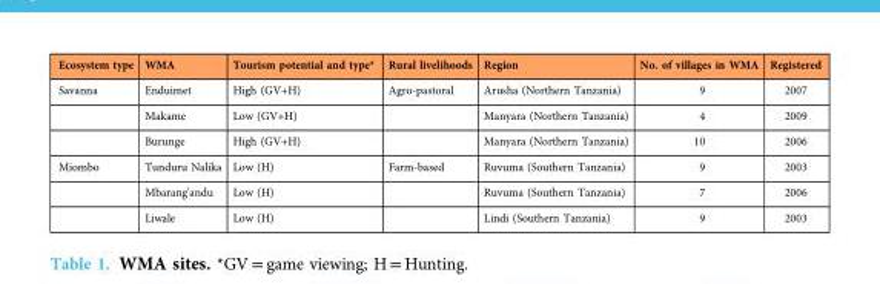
<table><thead><tr><td>Ecosystem type</td><td>WMA</td><td>Tourism potential and type*</td><td>Rural livelihoods</td><td>Region</td><td>No. of villages in WMA</td><td>Registered</td></tr></thead><tbody><tr><td rowspan="3">Savanna</td><td>Enduimet</td><td>High (GV+H)</td><td>Agro-pastoral</td><td>Arusha (Northern Tanzania)</td><td>9</td><td>2007</td></tr><tr><td>Makame</td><td>Low (GV+H)</td><td></td><td>Manyara (Northern Tanzania)</td><td>4</td><td>2009</td></tr><tr><td>Burunge</td><td>High (GV+H)</td><td></td><td>Manyara (Northern Tanzania)</td><td>10</td><td>2006</td></tr><tr><td rowspan="3">Miombo</td><td>Tunduru Nalika</td><td>Low (H)</td><td>Farm-based</td><td>Ruvuma (Southern Tanzania)</td><td>9</td><td>2003</td></tr><tr><td>Mbarang&#x27;andu</td><td>Low (H)</td><td></td><td>Ruvuma (Southern Tanzania)</td><td>7</td><td>2006</td></tr><tr><td>Liwale</td><td>Low (H)</td><td></td><td>Lindi (Southern Tanzania)</td><td>9</td><td>2003</td></tr></tbody></table>